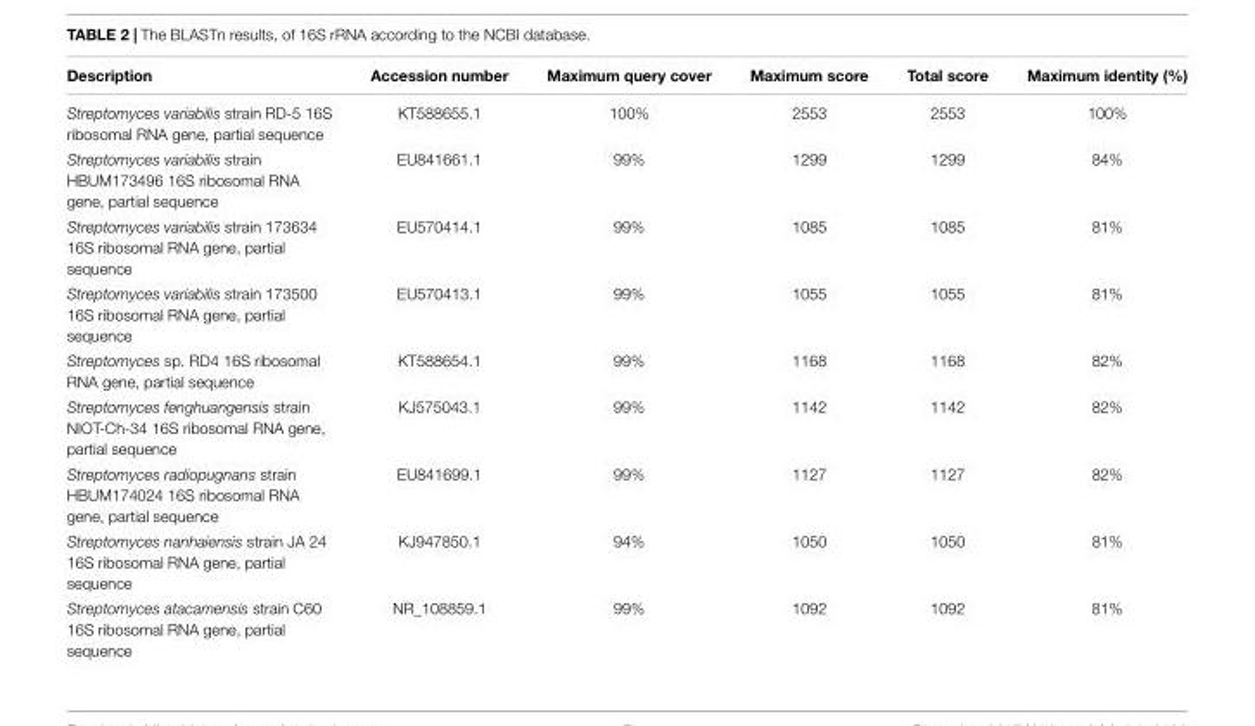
<table><thead><tr><td>Description</td><td>Accession number</td><td>Maximum query cover</td><td>Maximum score</td><td>Total score</td><td>Maximum identity (%)</td></tr></thead><tbody><tr><td>Streptomyces variabilis strain RD-5 16S ribosomal RNA gene, partial sequence</td><td>KT588655.1</td><td>100%</td><td>2553</td><td>2553</td><td>100%</td></tr><tr><td>Streptomyces variabilis strain HBUM173496 16S ribosomal RNA gene, partial sequence</td><td>EU841661.1</td><td>99%</td><td>1299</td><td>1299</td><td>84%</td></tr><tr><td>Streptomyces variabilis strain 173634 16S ribosomal RNA gene, partial sequence</td><td>EU570414.1</td><td>99%</td><td>1085</td><td>1085</td><td>81%</td></tr><tr><td>Streptomyces variabilis strain 173500 16S ribosomal RNA gene, partial sequence</td><td>EU570413.1</td><td>99%</td><td>1055</td><td>1055</td><td>81%</td></tr><tr><td>Streptomyces sp. RD4 16S ribosomal RNA gene, partial sequence</td><td>KT588654.1</td><td>99%</td><td>1168</td><td>1168</td><td>82%</td></tr><tr><td>Streptomyces fenghuangensis strain NIOT-Ch-34 16S ribosomal RNA gene, partial sequence</td><td>KJ575043.1</td><td>99%</td><td>1142</td><td>1142</td><td>82%</td></tr><tr><td>Streptomyces radiopugnans strain HBUM174024 16S ribosomal RNA gene, partial sequence</td><td>EU841699.1</td><td>99%</td><td>1127</td><td>1127</td><td>82%</td></tr><tr><td>Streptomyces nanhaiensis strain JA 24 16S ribosomal RNA gene, partial sequence</td><td>KJ947850.1</td><td>94%</td><td>1050</td><td>1050</td><td>81%</td></tr><tr><td>Streptomyces atacamensis strain C60 16S ribosomal RNA gene, partial sequence</td><td>NR_108859.1</td><td>99%</td><td>1092</td><td>1092</td><td>81%</td></tr></tbody></table>